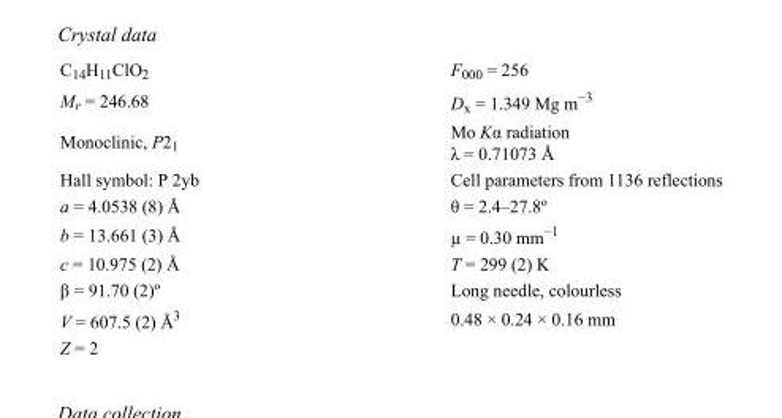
<table><tbody><tr><td>C<sub>14</sub>H<sub>11</sub>ClO<sub>2</sub></td><td>F<sub>000</sub> = 256</td></tr><tr><td>M<sub>r</sub> = 246.68</td><td>D<sub>x</sub> = 1.349 Mg m<sup>−3</sup></td></tr><tr><td>Monoclinic, P2<sub>1</sub></td><td>Mo Kα radiation λ = 0.71073 Å</td></tr><tr><td>Hall symbol: P 2yb</td><td>Cell parameters from 1136 reflections</td></tr><tr><td>a = 4.0538 (8) Å</td><td>θ = 2.4–27.8º</td></tr><tr><td>b = 13.661 (3) Å</td><td>µ = 0.30 mm<sup>−1</sup></td></tr><tr><td>c = 10.975 (2) Å</td><td>T = 299 (2) K</td></tr><tr><td>β = 91.70 (2)º</td><td>Long needle, colourless</td></tr><tr><td>V = 607.5 (2) Å<sup>3</sup></td><td>0.48 × 0.24 × 0.16 mm</td></tr><tr><td>Z = 2</td><td></td></tr></tbody></table>